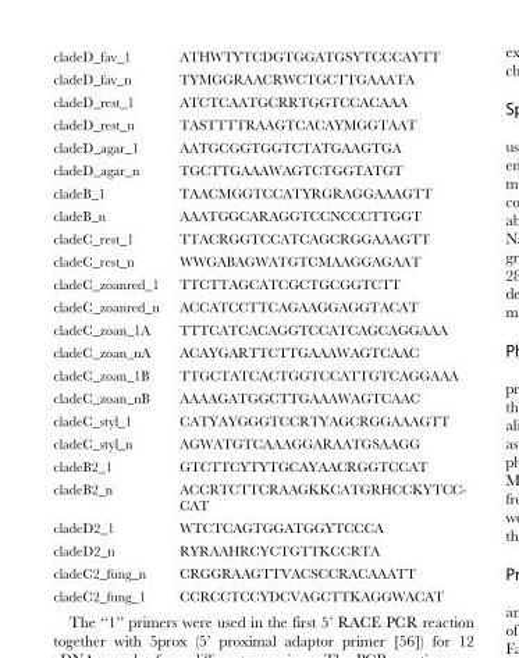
<table><tbody><tr><td>cladeD_fav_1</td><td>ATHWTYTCDGTGGATGSYTCCCAYTT</td></tr><tr><td>cladeD_fav_n</td><td>TYMGGRAACRWCTGCTTGAAATA</td></tr><tr><td>cladeD_rest_1</td><td>ATCTCAATGCRRTGGTCCACAAA</td></tr><tr><td>cladeD_rest_n</td><td>TASTTTTRAAGTCACAYMGGTAAT</td></tr><tr><td>cladeD_agar_1</td><td>AATGCGGTGGTCTATGAAGTGA</td></tr><tr><td>cladeD_agar_n</td><td>TGCTTGAAAWAGTCTGGTATGT</td></tr><tr><td>cladeB_1</td><td>TAACMGGTCCATYRGRAGGAAAGTT</td></tr><tr><td>cladeB_n</td><td>AAATGGCARAGGTCCNCCCTTGGT</td></tr><tr><td>cladeC_rest_1</td><td>TTACRGGTCCATCAGCRGGAAAGTT</td></tr><tr><td>cladeC_rest_n</td><td>WWGABAGWATGTCMAAGGAGAAT</td></tr><tr><td>cladeC_zoanred_1</td><td>TTCTTAGCATCGCTGCGGTCTT</td></tr><tr><td>cladeC_zoanred_n</td><td>ACCATCCTTCAGAAGGAGGTACAT</td></tr><tr><td>cladeC_zoan_1A</td><td>TTTCATCACAGGTCCATCAGCAGGAAA</td></tr><tr><td>cladeC_zoan_nA</td><td>ACAYGARTTCTTGAAAWAGTCAAC</td></tr><tr><td>cladeC_zoan_1B</td><td>TTGCTATCACTGGTCCATTGTCAGGAAA</td></tr><tr><td>cladeC_zoan_nB</td><td>AAAAGATGGCTTGAAAWAGTCAAC</td></tr><tr><td>cladeC_styl_1</td><td>CATYAYGGGTCCRTYAGCRGGAAAGTT</td></tr><tr><td>cladeC_styl_n</td><td>AGWATGTCAAAGGARAATGSAAGG</td></tr><tr><td>cladeB2_1</td><td>GTCTTCYTYTGCAYAACRGGTCCAT</td></tr><tr><td>cladeB2_n</td><td>ACCRTCTTCRAAGKKCATGRHCCKYTCC- CAT</td></tr><tr><td>cladeD2_1</td><td>WTCTCAGTGGATGGYTCCCA</td></tr><tr><td>cladeD2_n</td><td>RYRAAHRCYCTGTTKCCRTA</td></tr><tr><td>cladeC2_fung_n</td><td>CRGGRAAGTTVACSCCRACAAATT</td></tr><tr><td>cladeC2_fung_1</td><td>CCRCCTCCYDCVAGCTTKAGGWACAT</td></tr></tbody></table>